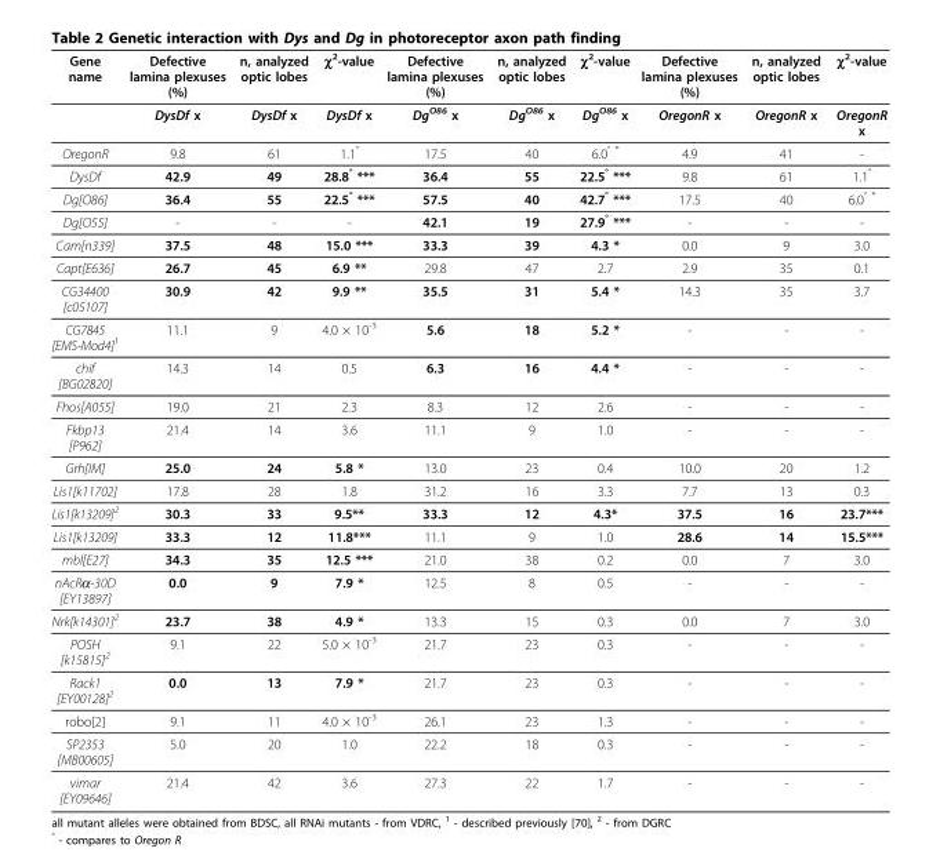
<table><thead><tr><td>Gene name</td><td>Defective lamina plexuses (%)</td><td>n, analyzed optic lobes</td><td>χ<sup>2</sup>-value</td><td>Defective lamina plexuses (%)</td><td>n, analyzed optic lobes</td><td>χ<sup>2</sup>-value</td><td>Defective lamina plexuses (%)</td><td>n, analyzed optic lobes</td><td>χ<sup>2</sup>-value</td></tr></thead><tbody><tr><td></td><td>DysDf x</td><td>DysDf x</td><td>DysDf x</td><td>Dg<sup>O86</sup> x</td><td>Dg<sup>O86</sup> x</td><td>Dg<sup>O86</sup> x</td><td>OregonR x</td><td>OregonR x</td><td>OregonR x</td></tr><tr><td>OregonR</td><td>9.8</td><td>61</td><td>1.1<sup>°</sup></td><td>17.5</td><td>40</td><td>6.0<sup>° *</sup></td><td>4.9</td><td>41</td><td>-</td></tr><tr><td>DysDf</td><td>42.9</td><td>49</td><td>28.8<sup>°</sup> ***</td><td>36.4</td><td>55</td><td>22.5<sup>°</sup> ***</td><td>9.8</td><td>61</td><td>1.1<sup>°</sup></td></tr><tr><td>Dg[O86]</td><td>36.4</td><td>55</td><td>22.5<sup>°</sup> ***</td><td>57.5</td><td>40</td><td>42.7<sup>°</sup> ***</td><td>17.5</td><td>40</td><td>6.0<sup>° *</sup></td></tr><tr><td>Dg[O55]</td><td>-</td><td>-</td><td>-</td><td>42.1</td><td>19</td><td>27.9<sup>°</sup> ***</td><td>-</td><td>-</td><td>-</td></tr><tr><td>Cam[n339]</td><td>37.5</td><td>48</td><td>15.0 ***</td><td>33.3</td><td>39</td><td>4.3 *</td><td>0.0</td><td>9</td><td>3.0</td></tr><tr><td>Capt[E636]</td><td>26.7</td><td>45</td><td>6.9 **</td><td>29.8</td><td>47</td><td>2.7</td><td>2.9</td><td>35</td><td>0.1</td></tr><tr><td>CG34400 [c05107]</td><td>30.9</td><td>42</td><td>9.9 **</td><td>35.5</td><td>31</td><td>5.4 *</td><td>14.3</td><td>35</td><td>3.7</td></tr><tr><td>CG7845 [EMS-Mod4]<sup>1</sup></td><td>11.1</td><td>9</td><td>4.0 × 10<sup>-3</sup></td><td>5.6</td><td>18</td><td>5.2 *</td><td>-</td><td>-</td><td>-</td></tr><tr><td>chif [BG02820]</td><td>14.3</td><td>14</td><td>0.5</td><td>6.3</td><td>16</td><td>4.4 *</td><td>-</td><td>-</td><td>-</td></tr><tr><td>Fhos[A055]</td><td>19.0</td><td>21</td><td>2.3</td><td>8.3</td><td>12</td><td>2.6</td><td>-</td><td>-</td><td>-</td></tr><tr><td>Fkbp13 [P962]</td><td>21.4</td><td>14</td><td>3.6</td><td>11.1</td><td>9</td><td>1.0</td><td>-</td><td>-</td><td>-</td></tr><tr><td>Grh[IM]</td><td>25.0</td><td>24</td><td>5.8 *</td><td>13.0</td><td>23</td><td>0.4</td><td>10.0</td><td>20</td><td>1.2</td></tr><tr><td>Lis1[k11702]</td><td>17.8</td><td>28</td><td>1.8</td><td>31.2</td><td>16</td><td>3.3</td><td>7.7</td><td>13</td><td>0.3</td></tr><tr><td>Lis1[k13209]<sup>2</sup></td><td>30.3</td><td>33</td><td>9.5**</td><td>33.3</td><td>12</td><td>4.3*</td><td>37.5</td><td>16</td><td>23.7***</td></tr><tr><td>Lis1[k13209]</td><td>33.3</td><td>12</td><td>11.8***</td><td>11.1</td><td>9</td><td>1.0</td><td>28.6</td><td>14</td><td>15.5***</td></tr><tr><td>mbl[E27]</td><td>34.3</td><td>35</td><td>12.5 ***</td><td>21.0</td><td>38</td><td>0.2</td><td>0.0</td><td>7</td><td>3.0</td></tr><tr><td>nAcRα-30D [EY13897]</td><td>0.0</td><td>9</td><td>7.9 *</td><td>12.5</td><td>8</td><td>0.5</td><td>-</td><td>-</td><td>-</td></tr><tr><td>Nrk[k14301]<sup>2</sup></td><td>23.7</td><td>38</td><td>4.9 *</td><td>13.3</td><td>15</td><td>0.3</td><td>0.0</td><td>7</td><td>3.0</td></tr><tr><td>POSH [k15815]<sup>2</sup></td><td>9.1</td><td>22</td><td>5.0 × 10<sup>-3</sup></td><td>21.7</td><td>23</td><td>0.3</td><td>-</td><td>-</td><td>-</td></tr><tr><td>Rack1 [EY00128]<sup>2</sup></td><td>0.0</td><td>13</td><td>7.9 *</td><td>21.7</td><td>23</td><td>0.3</td><td>-</td><td>-</td><td>-</td></tr><tr><td>robo[2]</td><td>9.1</td><td>11</td><td>4.0 × 10<sup>-3</sup></td><td>26.1</td><td>23</td><td>1.3</td><td>-</td><td>-</td><td>-</td></tr><tr><td>SP2353 [MB00605]</td><td>5.0</td><td>20</td><td>1.0</td><td>22.2</td><td>18</td><td>0.3</td><td>-</td><td>-</td><td>-</td></tr><tr><td>vimar [EY09646]</td><td>21.4</td><td>42</td><td>3.6</td><td>27.3</td><td>22</td><td>1.7</td><td>-</td><td>-</td><td>-</td></tr></tbody></table>